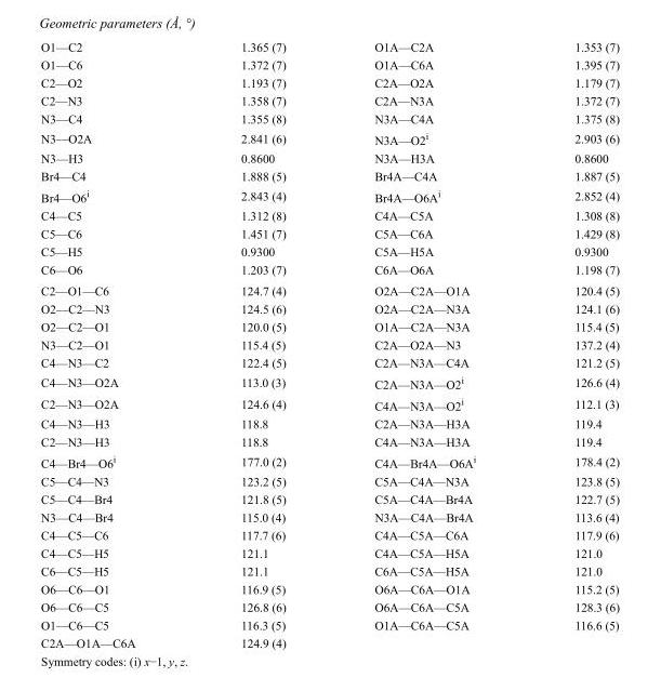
<table><tbody><tr><td>O1—C2</td><td>1.365 (7)</td><td>O1A—C2A</td><td>1.353 (7)</td></tr><tr><td>O1—C6</td><td>1.372 (7)</td><td>O1A—C6A</td><td>1.395 (7)</td></tr><tr><td>C2—O2</td><td>1.193 (7)</td><td>C2A—O2A</td><td>1.179 (7)</td></tr><tr><td>C2—N3</td><td>1.358 (7)</td><td>C2A—N3A</td><td>1.372 (7)</td></tr><tr><td>N3—C4</td><td>1.355 (8)</td><td>N3A—C4A</td><td>1.375 (8)</td></tr><tr><td>N3—O2A</td><td>2.841 (6)</td><td>N3A—O2<sup>i</sup></td><td>2.903 (6)</td></tr><tr><td>N3—H3</td><td>0.8600</td><td>N3A—H3A</td><td>0.8600</td></tr><tr><td>Br4—C4</td><td>1.888 (5)</td><td>Br4A—C4A</td><td>1.887 (5)</td></tr><tr><td>Br4—O6<sup>i</sup></td><td>2.843 (4)</td><td>Br4A—O6A<sup>i</sup></td><td>2.852 (4)</td></tr><tr><td>C4—C5</td><td>1.312 (8)</td><td>C4A—C5A</td><td>1.308 (8)</td></tr><tr><td>C5—C6</td><td>1.451 (7)</td><td>C5A—C6A</td><td>1.429 (8)</td></tr><tr><td>C5—H5</td><td>0.9300</td><td>C5A—H5A</td><td>0.9300</td></tr><tr><td>C6—O6</td><td>1.203 (7)</td><td>C6A—O6A</td><td>1.198 (7)</td></tr><tr><td>C2—O1—C6</td><td>124.7 (4)</td><td>O2A—C2A—O1A</td><td>120.4 (5)</td></tr><tr><td>O2—C2—N3</td><td>124.5 (6)</td><td>O2A—C2A—N3A</td><td>124.1 (6)</td></tr><tr><td>O2—C2—O1</td><td>120.0 (5)</td><td>O1A—C2A—N3A</td><td>115.4 (5)</td></tr><tr><td>N3—C2—O1</td><td>115.4 (5)</td><td>C2A—O2A—N3</td><td>137.2 (4)</td></tr><tr><td>C4—N3—C2</td><td>122.4 (5)</td><td>C2A—N3A—C4A</td><td>121.2 (5)</td></tr><tr><td>C4—N3—O2A</td><td>113.0 (3)</td><td>C2A—N3A—O2<sup>i</sup></td><td>126.6 (4)</td></tr><tr><td>C2—N3—O2A</td><td>124.6 (4)</td><td>C4A—N3A—O2<sup>i</sup></td><td>112.1 (3)</td></tr><tr><td>C4—N3—H3</td><td>118.8</td><td>C2A—N3A—H3A</td><td>119.4</td></tr><tr><td>C2—N3—H3</td><td>118.8</td><td>C4A—N3A—H3A</td><td>119.4</td></tr><tr><td>C4—Br4—O6<sup>i</sup></td><td>177.0 (2)</td><td>C4A—Br4A—O6A<sup>i</sup></td><td>178.4 (2)</td></tr><tr><td>C5—C4—N3</td><td>123.2 (5)</td><td>C5A—C4A—N3A</td><td>123.8 (5)</td></tr><tr><td>C5—C4—Br4</td><td>121.8 (5)</td><td>C5A—C4A—Br4A</td><td>122.7 (5)</td></tr><tr><td>N3—C4—Br4</td><td>115.0 (4)</td><td>N3A—C4A—Br4A</td><td>113.6 (4)</td></tr><tr><td>C4—C5—C6</td><td>117.7 (6)</td><td>C4A—C5A—C6A</td><td>117.9 (6)</td></tr><tr><td>C4—C5—H5</td><td>121.1</td><td>C4A—C5A—H5A</td><td>121.0</td></tr><tr><td>C6—C5—H5</td><td>121.1</td><td>C6A—C5A—H5A</td><td>121.0</td></tr><tr><td>O6—C6—O1</td><td>116.9 (5)</td><td>O6A—C6A—O1A</td><td>115.2 (5)</td></tr><tr><td>O6—C6—C5</td><td>126.8 (6)</td><td>O6A—C6A—C5A</td><td>128.3 (6)</td></tr><tr><td>O1—C6—C5</td><td>116.3 (5)</td><td>O1A—C6A—C5A</td><td>116.6 (5)</td></tr><tr><td>C2A—O1A—C6A</td><td>124.9 (4)</td><td></td><td></td></tr></tbody></table>